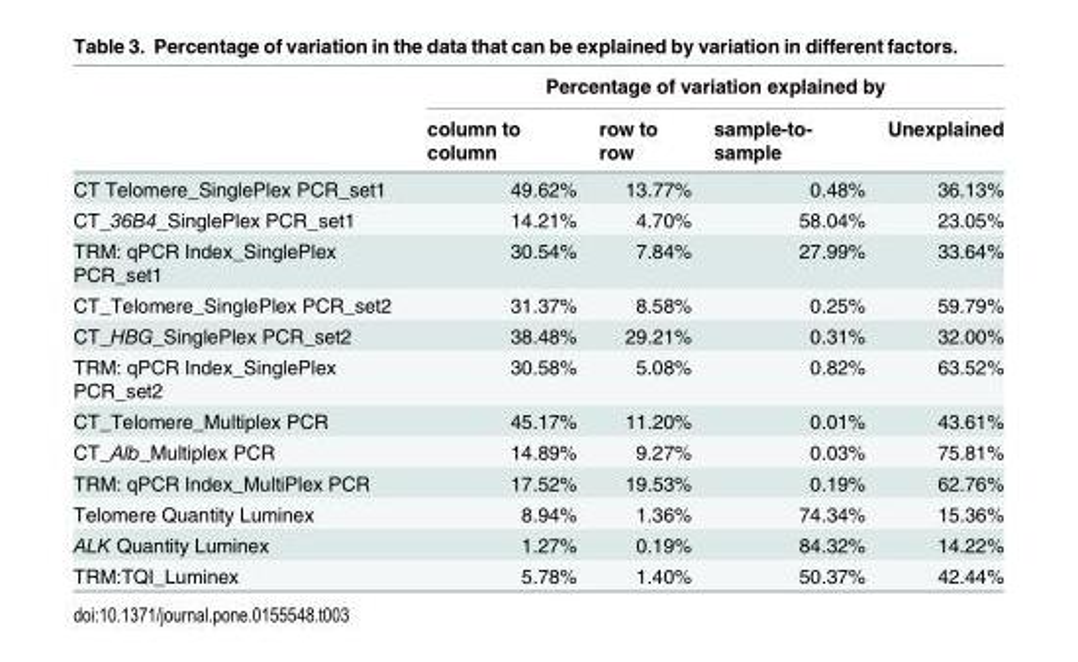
<table><thead><tr><td rowspan="2"></td><td colspan="4">Percentage of variation explained by</td></tr><tr><td>column to column</td><td>row to row</td><td>sample-to- sample</td><td>Unexplained</td></tr></thead><tbody><tr><td>CT Telomere_SinglePlex PCR_set1</td><td>49.62%</td><td>13.77%</td><td>0.48%</td><td>36.13%</td></tr><tr><td>CT_36B4_SinglePlex PCR_set1</td><td>14.21%</td><td>4.70%</td><td>58.04%</td><td>23.05%</td></tr><tr><td>TRM: qPCR Index_SinglePlex PCR_set1</td><td>30.54%</td><td>7.84%</td><td>27.99%</td><td>33.64%</td></tr><tr><td>CT_Telomere_SinglePlex PCR_set2</td><td>31.37%</td><td>8.58%</td><td>0.25%</td><td>59.79%</td></tr><tr><td>CT_HBG_SinglePlex PCR_set2</td><td>38.48%</td><td>29.21%</td><td>0.31%</td><td>32.00%</td></tr><tr><td>TRM: qPCR Index_SinglePlex PCR_set2</td><td>30.58%</td><td>5.08%</td><td>0.82%</td><td>63.52%</td></tr><tr><td>CT_Telomere_Multiplex PCR</td><td>45.17%</td><td>11.20%</td><td>0.01%</td><td>43.61%</td></tr><tr><td>CT_Alb_Multiplex PCR</td><td>14.89%</td><td>9.27%</td><td>0.03%</td><td>75.81%</td></tr><tr><td>TRM: qPCR Index_MultiPlex PCR</td><td>17.52%</td><td>19.53%</td><td>0.19%</td><td>62.76%</td></tr><tr><td>Telomere Quantity Luminex</td><td>8.94%</td><td>1.36%</td><td>74.34%</td><td>15.36%</td></tr><tr><td>ALK Quantity Luminex</td><td>1.27%</td><td>0.19%</td><td>84.32%</td><td>14.22%</td></tr><tr><td>TRM:TQI_Luminex</td><td>5.78%</td><td>1.40%</td><td>50.37%</td><td>42.44%</td></tr></tbody></table>